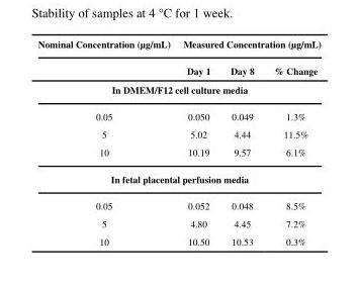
<table><thead><tr><td rowspan="2">Nominal Concentration (μg/mL)</td><td colspan="3">Measured Concentration (μg/mL)</td></tr><tr><td>Day 1</td><td>Day 8</td><td>% Change</td></tr></thead><tbody><tr><td colspan="4">In DMEM/F12 cell culture media</td></tr><tr><td>0.05</td><td>0.050</td><td>0.049</td><td>1.3%</td></tr><tr><td>5</td><td>5.02</td><td>4.44</td><td>11.5%</td></tr><tr><td>10</td><td>10.19</td><td>9.57</td><td>6.1%</td></tr><tr><td colspan="4">In fetal placental perfusion media</td></tr><tr><td>0.05</td><td>0.052</td><td>0.048</td><td>8.5%</td></tr><tr><td>5</td><td>4.80</td><td>4.45</td><td>7.2%</td></tr><tr><td>10</td><td>10.50</td><td>10.53</td><td>0.3%</td></tr></tbody></table>